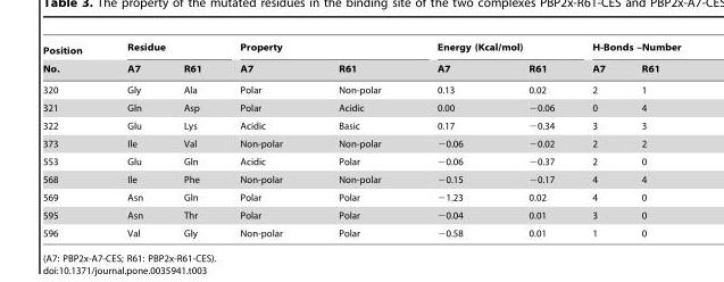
<table><thead><tr><td rowspan="2">Position No.</td><td colspan="2">Residue</td><td colspan="2">Property</td><td colspan="2">Energy (Kcal/mol)</td><td colspan="2">H-Bonds –Number</td></tr><tr><td>A7</td><td>R61</td><td>A7</td><td>R61</td><td>A7</td><td>R61</td><td>A7</td><td>R61</td></tr></thead><tbody><tr><td>320</td><td>Gly</td><td>Ala</td><td>Polar</td><td>Non-polar</td><td>0.13</td><td>0.02</td><td>2</td><td>1</td></tr><tr><td>321</td><td>Gln</td><td>Asp</td><td>Polar</td><td>Acidic</td><td>0.00</td><td>−0.06</td><td>0</td><td>4</td></tr><tr><td>322</td><td>Glu</td><td>Lys</td><td>Acidic</td><td>Basic</td><td>0.17</td><td>−0.34</td><td>3</td><td>3</td></tr><tr><td>373</td><td>Ile</td><td>Val</td><td>Non-polar</td><td>Non-polar</td><td>−0.06</td><td>−0.02</td><td>2</td><td>2</td></tr><tr><td>553</td><td>Glu</td><td>Gln</td><td>Acidic</td><td>Polar</td><td>−0.06</td><td>−0.37</td><td>2</td><td>0</td></tr><tr><td>568</td><td>Ile</td><td>Phe</td><td>Non-polar</td><td>Non-polar</td><td>−0.15</td><td>−0.17</td><td>4</td><td>4</td></tr><tr><td>569</td><td>Asn</td><td>Gln</td><td>Polar</td><td>Polar</td><td>−1.23</td><td>0.02</td><td>4</td><td>0</td></tr><tr><td>595</td><td>Asn</td><td>Thr</td><td>Polar</td><td>Polar</td><td>−0.04</td><td>0.01</td><td>3</td><td>0</td></tr><tr><td>596</td><td>Val</td><td>Gly</td><td>Non-polar</td><td>Polar</td><td>−0.58</td><td>0.01</td><td>1</td><td>0</td></tr></tbody></table>